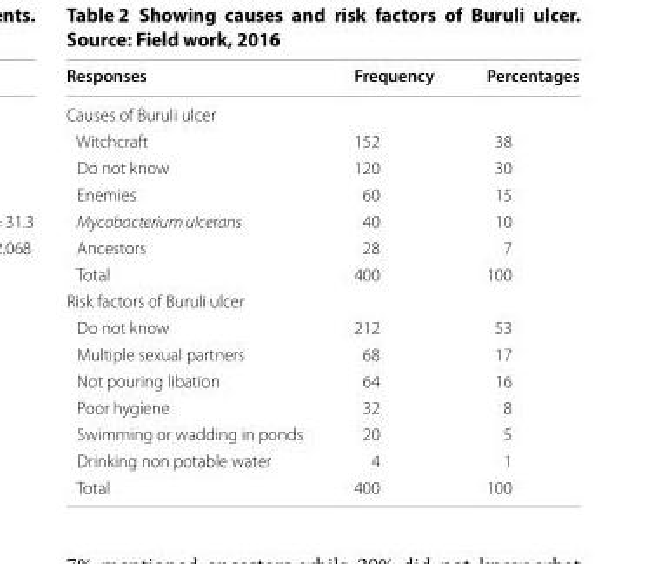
<table><thead><tr><td>Responses</td><td>Frequency</td><td>Percentages</td></tr></thead><tbody><tr><td colspan="3">Causes of Buruli ulcer</td></tr><tr><td>Witchcraft</td><td>152</td><td>38</td></tr><tr><td>Do not know</td><td>120</td><td>30</td></tr><tr><td>Enemies</td><td>60</td><td>15</td></tr><tr><td>Mycobacterium ulcerans</td><td>40</td><td>10</td></tr><tr><td>Ancestors</td><td>28</td><td>7</td></tr><tr><td>Total</td><td>400</td><td>100</td></tr><tr><td colspan="3">Risk factors of Buruli ulcer</td></tr><tr><td>Do not know</td><td>212</td><td>53</td></tr><tr><td>Multiple sexual partners</td><td>68</td><td>17</td></tr><tr><td>Not pouring libation</td><td>64</td><td>16</td></tr><tr><td>Poor hygiene</td><td>32</td><td>8</td></tr><tr><td>Swimming or wadding in ponds</td><td>20</td><td>5</td></tr><tr><td>Drinking non potable water</td><td>4</td><td>1</td></tr><tr><td>Total</td><td>400</td><td>100</td></tr></tbody></table>